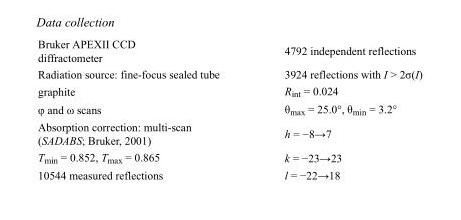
<table><tbody><tr><td>Bruker APEXII CCD diffractometer</td><td>4792 independent reflections</td></tr><tr><td>Radiation source: fine-focus sealed tube</td><td>3924 reflections with I &gt; 2σ(I)</td></tr><tr><td>graphite</td><td>R<sub>int</sub> = 0.024</td></tr><tr><td>φ and ω scans</td><td>θ<sub>max</sub> = 25.0°, θ<sub>min</sub> = 3.2°</td></tr><tr><td>Absorption correction: multi-scan (SADABS; Bruker, 2001)</td><td>h = −8→7</td></tr><tr><td>T<sub>min</sub> = 0.852, T<sub>max</sub> = 0.865</td><td>k = −23→23</td></tr><tr><td>10544 measured reflections</td><td>l = −22→18</td></tr></tbody></table>